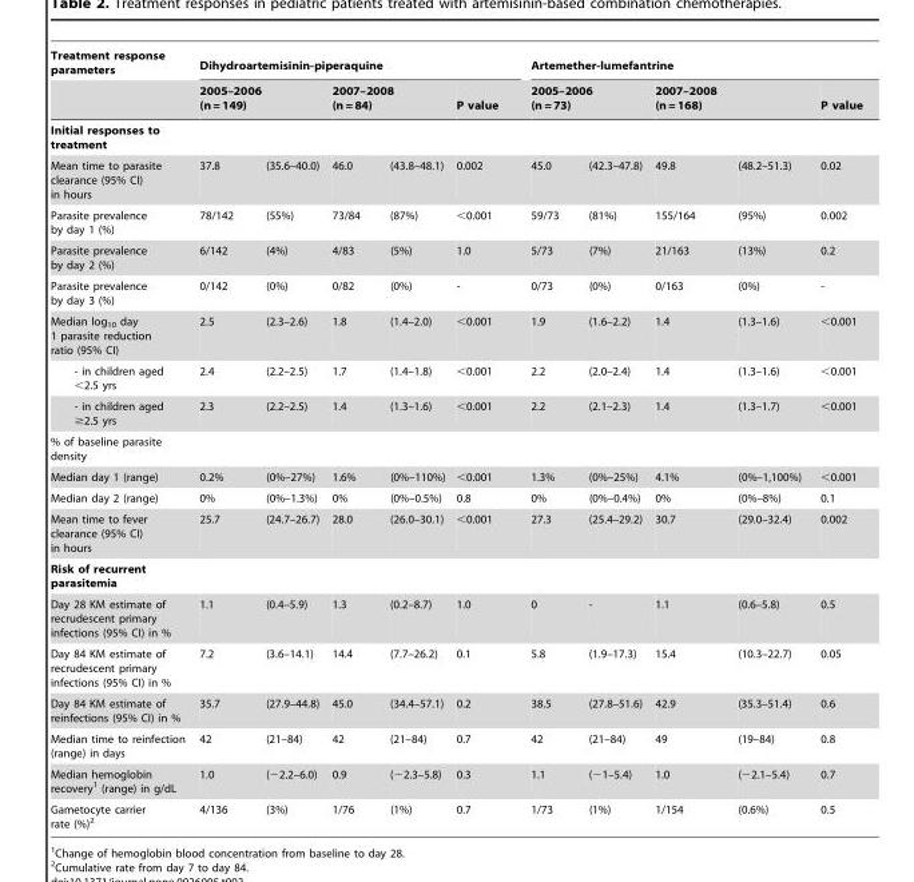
<table><thead><tr><td rowspan="3">Treatment response parameters Initial responses to treatment</td><td colspan="5">Dihydroartemisinin-piperaquine</td><td colspan="5">Artemether-lumefantrine</td></tr><tr><td colspan="2">2005–2006 (n = 149)</td><td colspan="2">2007–2008 (n = 84)</td><td rowspan="2">P value</td><td colspan="2">2005–2006 (n = 73)</td><td colspan="2">2007–2008 (n = 168)</td><td rowspan="2">P value</td></tr><tr><td></td><td></td><td></td><td></td><td></td><td></td><td></td><td></td></tr></thead><tbody><tr><td>Mean time to parasite clearance (95% CI) in hours</td><td>37.8</td><td>(35.6–40.0)</td><td>46.0</td><td>(43.8–48.1)</td><td>0.002</td><td>45.0</td><td>(42.3–47.8)</td><td>49.8</td><td>(48.2–51.3)</td><td>0.02</td></tr><tr><td>Parasite prevalence by day 1 (%)</td><td>78/142</td><td>(55%)</td><td>73/84</td><td>(87%)</td><td>&lt;0.001</td><td>59/73</td><td>(81%)</td><td>155/164</td><td>(95%)</td><td>0.002</td></tr><tr><td>Parasite prevalence by day 2 (%)</td><td>6/142</td><td>(4%)</td><td>4/83</td><td>(5%)</td><td>1.0</td><td>5/73</td><td>(7%)</td><td>21/163</td><td>(13%)</td><td>0.2</td></tr><tr><td>Parasite prevalence by day 3 (%)</td><td>0/142</td><td>(0%)</td><td>0/82</td><td>(0%)</td><td>-</td><td>0/73</td><td>(0%)</td><td>0/163</td><td>(0%)</td><td>-</td></tr><tr><td>Median log<sub>10</sub> day 1 parasite reduction ratio (95% CI)</td><td>2.5</td><td>(2.3–2.6)</td><td>1.8</td><td>(1.4–2.0)</td><td>&lt;0.001</td><td>1.9</td><td>(1.6–2.2)</td><td>1.4</td><td>(1.3–1.6)</td><td>&lt;0.001</td></tr><tr><td>- in children aged &lt;2.5 yrs</td><td>2.4</td><td>(2.2–2.5)</td><td>1.7</td><td>(1.4–1.8)</td><td>&lt;0.001</td><td>2.2</td><td>(2.0–2.4)</td><td>1.4</td><td>(1.3–1.6)</td><td>&lt;0.001</td></tr><tr><td>- in children aged ≥2.5 yrs</td><td>2.3</td><td>(2.2–2.5)</td><td>1.4</td><td>(1.3–1.6)</td><td>&lt;0.001</td><td>2.2</td><td>(2.1–2.3)</td><td>1.4</td><td>(1.3–1.7)</td><td>&lt;0.001</td></tr><tr><td colspan="11">% of baseline parasite density</td></tr><tr><td>Median day 1 (range)</td><td>0.2%</td><td>(0%–27%)</td><td>1.6%</td><td>(0%–110%)</td><td>&lt;0.001</td><td>1.3%</td><td>(0%–25%)</td><td>4.1%</td><td>(0%–1,100%)</td><td>&lt;0.001</td></tr><tr><td>Median day 2 (range)</td><td>0%</td><td>(0%–1.3%)</td><td>0%</td><td>(0%–0.5%)</td><td>0.8</td><td>0%</td><td>(0%–0.4%)</td><td>0%</td><td>(0%–8%)</td><td>0.1</td></tr><tr><td>Mean time to fever clearance (95% CI) in hours</td><td>25.7</td><td>(24.7–26.7)</td><td>28.0</td><td>(26.0–30.1)</td><td>&lt;0.001</td><td>27.3</td><td>(25.4–29.2)</td><td>30.7</td><td>(29.0–32.4)</td><td>0.002</td></tr><tr><td colspan="11">Risk of recurrent parasitemia</td></tr><tr><td>Day 28 KM estimate of recrudescent primary infections (95% CI) in %</td><td>1.1</td><td>(0.4–5.9)</td><td>1.3</td><td>(0.2–8.7)</td><td>1.0</td><td>0</td><td>-</td><td>1.1</td><td>(0.6–5.8)</td><td>0.5</td></tr><tr><td>Day 84 KM estimate of recrudescent primary infections (95% CI) in %</td><td>7.2</td><td>(3.6–14.1)</td><td>14.4</td><td>(7.7–26.2)</td><td>0.1</td><td>5.8</td><td>(1.9–17.3)</td><td>15.4</td><td>(10.3–22.7)</td><td>0.05</td></tr><tr><td>Day 84 KM estimate of reinfections (95% CI) in %</td><td>35.7</td><td>(27.9–44.8)</td><td>45.0</td><td>(34.4–57.1)</td><td>0.2</td><td>38.5</td><td>(27.8–51.6)</td><td>42.9</td><td>(35.3–51.4)</td><td>0.6</td></tr><tr><td>Median time to reinfection (range) in days</td><td>42</td><td>(21–84)</td><td>42</td><td>(21–84)</td><td>0.7</td><td>42</td><td>(21–84)</td><td>49</td><td>(19–84)</td><td>0.8</td></tr><tr><td>Median hemoglobin recovery<sup>1</sup> (range) in g/dL</td><td>1.0</td><td>(−2.2–6.0)</td><td>0.9</td><td>(−2.3–5.8)</td><td>0.3</td><td>1.1</td><td>(−1–5.4)</td><td>1.0</td><td>(−2.1–5.4)</td><td>0.7</td></tr><tr><td>Gametocyte carrier rate (%)<sup>2</sup></td><td>4/136</td><td>(3%)</td><td>1/76</td><td>(1%)</td><td>0.7</td><td>1/73</td><td>(1%)</td><td>1/154</td><td>(0.6%)</td><td>0.5</td></tr></tbody></table>